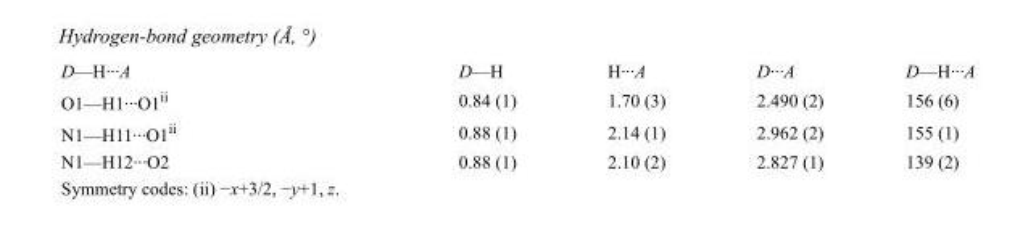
<table><tbody><tr><td>D—H···A</td><td>D—H</td><td>H···A</td><td>D···A</td><td>D—H···A</td></tr><tr><td>O1—H1···O1<sup>ii</sup></td><td>0.84 (1)</td><td>1.70 (3)</td><td>2.490 (2)</td><td>156 (6)</td></tr><tr><td>N1—H11···O1<sup>ii</sup></td><td>0.88 (1)</td><td>2.14 (1)</td><td>2.962 (2)</td><td>155 (1)</td></tr><tr><td>N1—H12···O2</td><td>0.88 (1)</td><td>2.10 (2)</td><td>2.827 (1)</td><td>139 (2)</td></tr></tbody></table>